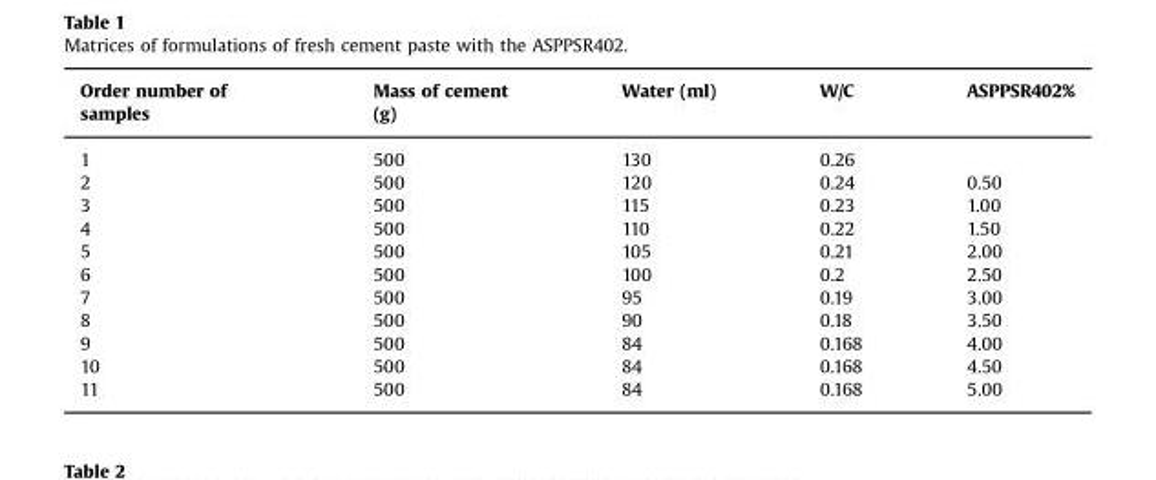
<table><thead><tr><td>Order number of samples</td><td>Mass of cement (g)</td><td>Water (ml)</td><td>W/C</td><td>ASPPSR402%</td></tr></thead><tbody><tr><td>1</td><td>500</td><td>130</td><td>0.26</td><td></td></tr><tr><td>2</td><td>500</td><td>120</td><td>0.24</td><td>0.50</td></tr><tr><td>3</td><td>500</td><td>115</td><td>0.23</td><td>1.00</td></tr><tr><td>4</td><td>500</td><td>110</td><td>0.22</td><td>1.50</td></tr><tr><td>5</td><td>500</td><td>105</td><td>0.21</td><td>2.00</td></tr><tr><td>6</td><td>500</td><td>100</td><td>0.2</td><td>2.50</td></tr><tr><td>7</td><td>500</td><td>95</td><td>0.19</td><td>3.00</td></tr><tr><td>8</td><td>500</td><td>90</td><td>0.18</td><td>3.50</td></tr><tr><td>9</td><td>500</td><td>84</td><td>0.168</td><td>4.00</td></tr><tr><td>10</td><td>500</td><td>84</td><td>0.168</td><td>4.50</td></tr><tr><td>11</td><td>500</td><td>84</td><td>0.168</td><td>5.00</td></tr></tbody></table>